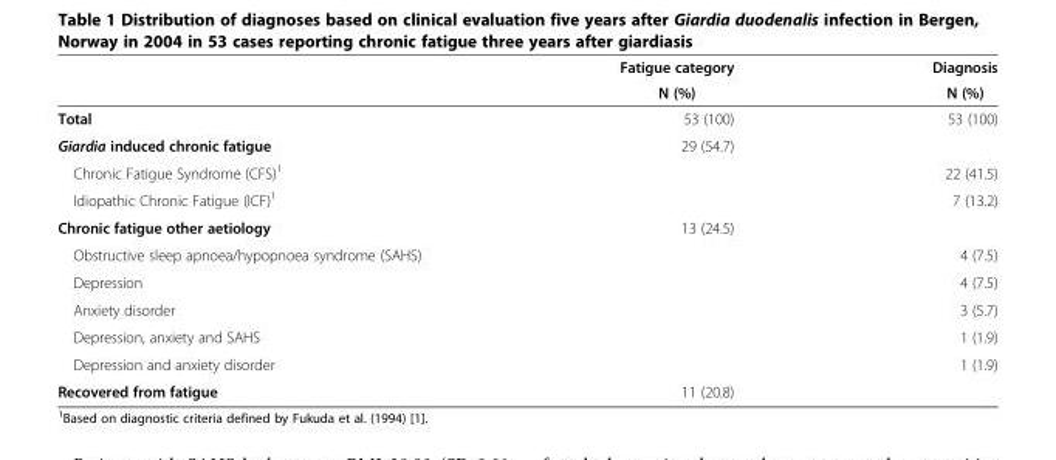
<table><thead><tr><td rowspan="2"></td><td rowspan="2">Fatigue category N (%)</td><td rowspan="2">Diagnosis N (%)</td></tr><tr></tr></thead><tbody><tr><td>Total</td><td>53 (100)</td><td>53 (100)</td></tr><tr><td>Giardia induced chronic fatigue</td><td>29 (54.7)</td><td></td></tr><tr><td>Chronic Fatigue Syndrome (CFS)<sup>1</sup></td><td></td><td>22 (41.5)</td></tr><tr><td>Idiopathic Chronic Fatigue (ICF)<sup>1</sup></td><td></td><td>7 (13.2)</td></tr><tr><td>Chronic fatigue other aetiology</td><td>13 (24.5)</td><td></td></tr><tr><td>Obstructive sleep apnoea/hypopnoea syndrome (SAHS)</td><td></td><td>4 (7.5)</td></tr><tr><td>Depression</td><td></td><td>4 (7.5)</td></tr><tr><td>Anxiety disorder</td><td></td><td>3 (5.7)</td></tr><tr><td>Depression, anxiety and SAHS</td><td></td><td>1 (1.9)</td></tr><tr><td>Depression and anxiety disorder</td><td></td><td>1 (1.9)</td></tr><tr><td>Recovered from fatigue</td><td>11 (20.8)</td><td></td></tr></tbody></table>